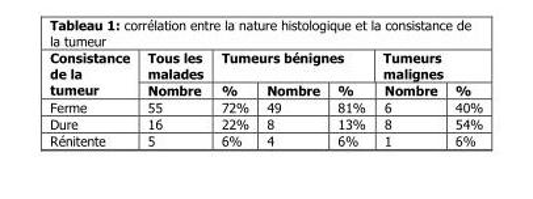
<table><thead><tr><td rowspan="2">Consistance de la tumeur</td><td rowspan="2">Tous les malades Nombre</td><td colspan="3">Tumeurs bénignes</td><td colspan="2">Tumeurs malignes</td></tr><tr><td>%</td><td>Nombre</td><td>%</td><td>Nombre</td><td>%</td></tr></thead><tbody><tr><td>Ferme</td><td>55</td><td>72%</td><td>49</td><td>81%</td><td>6</td><td>40%</td></tr><tr><td>Dure</td><td>16</td><td>22%</td><td>8</td><td>13%</td><td>8</td><td>54%</td></tr><tr><td>Rénitente</td><td>5</td><td>6%</td><td>4</td><td>6%</td><td>1</td><td>6%</td></tr></tbody></table>